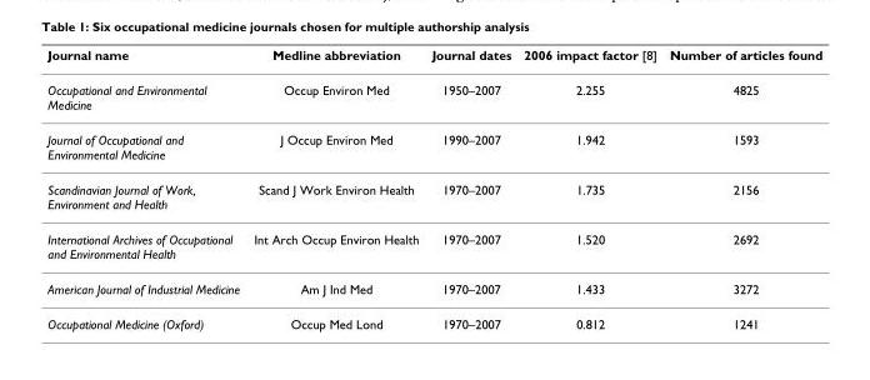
<table><thead><tr><td>Journal name</td><td>Medline abbreviation</td><td>Journal dates</td><td>2006 impact factor [8]</td><td>Number of articles found</td></tr></thead><tbody><tr><td>Occupational and Environmental Medicine</td><td>Occup Environ Med</td><td>1950–2007</td><td>2.255</td><td>4825</td></tr><tr><td>Journal of Occupational and Environmental Medicine</td><td>J Occup Environ Med</td><td>1990–2007</td><td>1.942</td><td>1593</td></tr><tr><td>Scandinavian Journal of Work, Environment and Health</td><td>Scand J Work Environ Health</td><td>1970–2007</td><td>1.735</td><td>2156</td></tr><tr><td>International Archives of Occupational and Environmental Health</td><td>Int Arch Occup Environ Health</td><td>1970–2007</td><td>1.520</td><td>2692</td></tr><tr><td>American Journal of Industrial Medicine</td><td>Am J Ind Med</td><td>1970–2007</td><td>1.433</td><td>3272</td></tr><tr><td>Occupational Medicine (Oxford)</td><td>Occup Med Lond</td><td>1970–2007</td><td>0.812</td><td>1241</td></tr></tbody></table>